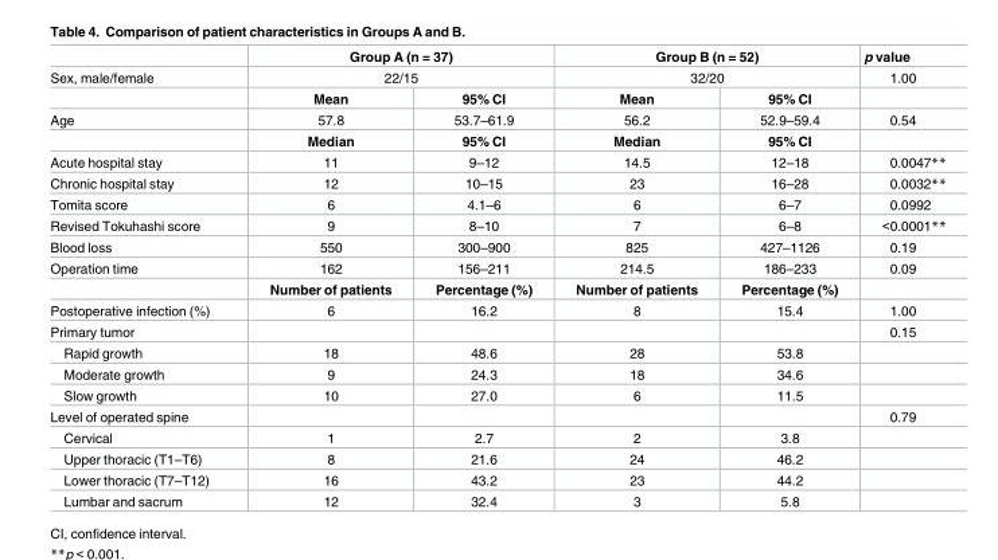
<table><thead><tr><td rowspan="3">Sex, male/female</td><td rowspan="2" colspan="2">Group A (n = 37) 22/15</td><td rowspan="2" colspan="2">Group B (n = 52) 32/20</td><td rowspan="3">p value 1.00</td></tr><tr></tr><tr><td>Mean</td><td>95% CI</td><td>Mean</td><td>95% CI</td></tr></thead><tbody><tr><td rowspan="2">Age</td><td>57.8</td><td>53.7–61.9</td><td>56.2</td><td>52.9–59.4</td><td>0.54</td></tr><tr><td>Median</td><td>95% CI</td><td>Median</td><td>95% CI</td><td></td></tr><tr><td>Acute hospital stay</td><td>11</td><td>9–12</td><td>14.5</td><td>12–18</td><td>0.0047**</td></tr><tr><td>Chronic hospital stay</td><td>12</td><td>10–15</td><td>23</td><td>16–28</td><td>0.0032**</td></tr><tr><td>Tomita score</td><td>6</td><td>4.1–6</td><td>6</td><td>6–7</td><td>0.0992</td></tr><tr><td>Revised Tokuhashi score</td><td>9</td><td>8–10</td><td>7</td><td>6–8</td><td>&lt;0.0001**</td></tr><tr><td>Blood loss</td><td>550</td><td>300–900</td><td>825</td><td>427–1126</td><td>0.19</td></tr><tr><td rowspan="2">Operation time</td><td>162</td><td>156–211</td><td>214.5</td><td>186–233</td><td>0.09</td></tr><tr><td>Number of patients</td><td>Percentage (%)</td><td>Number of patients</td><td>Percentage (%)</td><td></td></tr><tr><td>Postoperative infection (%)</td><td>6</td><td>16.2</td><td>8</td><td>15.4</td><td>1.00</td></tr><tr><td>Primary tumor</td><td></td><td></td><td></td><td></td><td>0.15</td></tr><tr><td>Rapid growth</td><td>18</td><td>48.6</td><td>28</td><td>53.8</td><td></td></tr><tr><td>Moderate growth</td><td>9</td><td>24.3</td><td>18</td><td>34.6</td><td></td></tr><tr><td>Slow growth</td><td>10</td><td>27.0</td><td>6</td><td>11.5</td><td></td></tr><tr><td>Level of operated spine</td><td></td><td></td><td></td><td></td><td>0.79</td></tr><tr><td>Cervical</td><td>1</td><td>2.7</td><td>2</td><td>3.8</td><td></td></tr><tr><td>Upper thoracic (T1–T6)</td><td>8</td><td>21.6</td><td>24</td><td>46.2</td><td></td></tr><tr><td>Lower thoracic (T7–T12)</td><td>16</td><td>43.2</td><td>23</td><td>44.2</td><td></td></tr><tr><td>Lumbar and sacrum</td><td>12</td><td>32.4</td><td>3</td><td>5.8</td><td></td></tr></tbody></table>